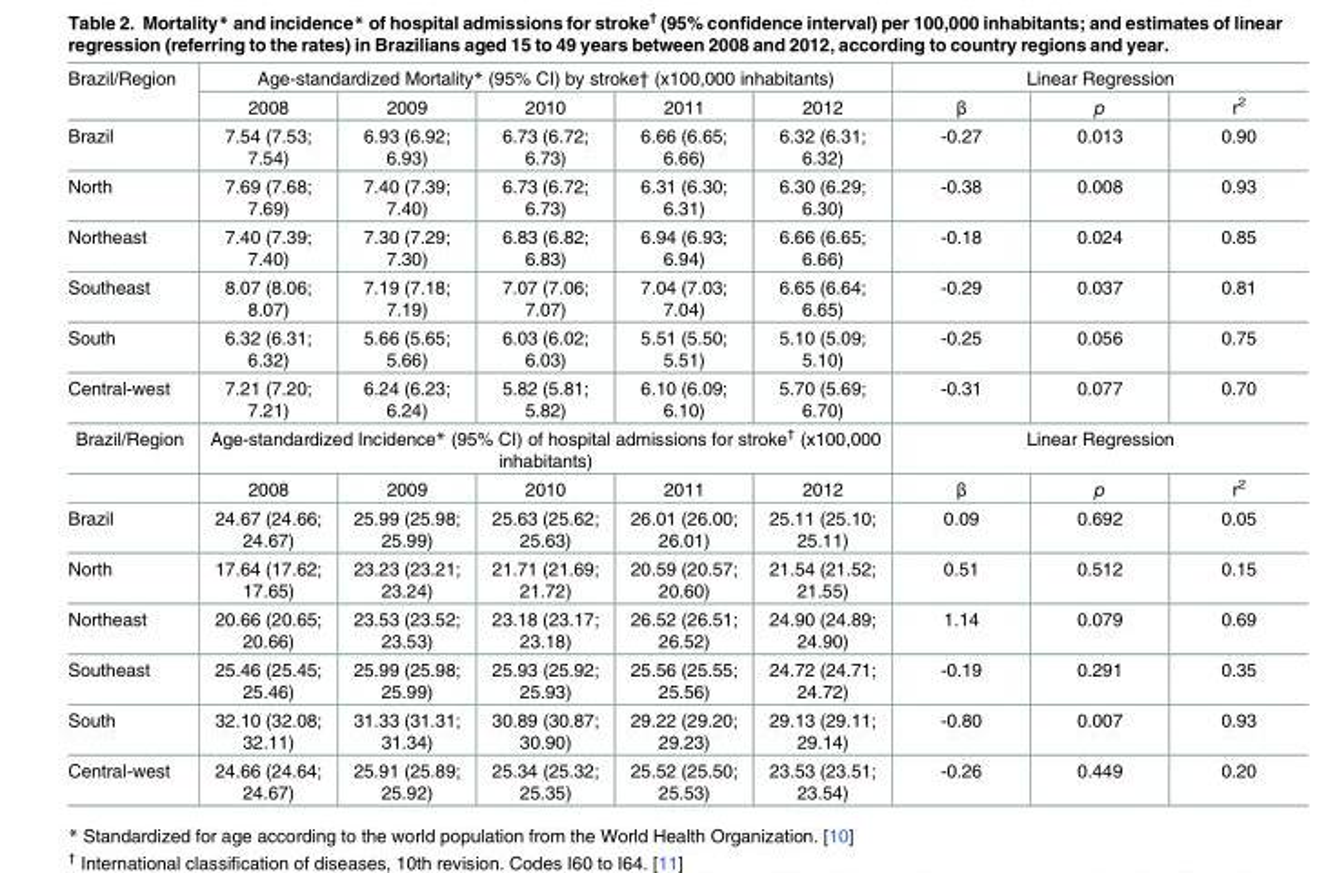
<table><tbody><tr><td rowspan="2">Brazil/Region</td><td colspan="5">Age-standardized Mortality* (95% CI) by stroke† (x100,000 inhabitants)</td><td colspan="3">Linear Regression</td></tr><tr><td>2008</td><td>2009</td><td>2010</td><td>2011</td><td>2012</td><td>β</td><td>p</td><td>r<sup>2</sup></td></tr><tr><td>Brazil</td><td>7.54 (7.53; 7.54)</td><td>6.93 (6.92; 6.93)</td><td>6.73 (6.72; 6.73)</td><td>6.66 (6.65; 6.66)</td><td>6.32 (6.31; 6.32)</td><td>-0.27</td><td>0.013</td><td>0.90</td></tr><tr><td>North</td><td>7.69 (7.68; 7.69)</td><td>7.40 (7.39; 7.40)</td><td>6.73 (6.72; 6.73)</td><td>6.31 (6.30; 6.31)</td><td>6.30 (6.29; 6.30)</td><td>-0.38</td><td>0.008</td><td>0.93</td></tr><tr><td>Northeast</td><td>7.40 (7.39; 7.40)</td><td>7.30 (7.29; 7.30)</td><td>6.83 (6.82; 6.83)</td><td>6.94 (6.93; 6.94)</td><td>6.66 (6.65; 6.66)</td><td>-0.18</td><td>0.024</td><td>0.85</td></tr><tr><td>Southeast</td><td>8.07 (8.06; 8.07)</td><td>7.19 (7.18; 7.19)</td><td>7.07 (7.06; 7.07)</td><td>7.04 (7.03; 7.04)</td><td>6.65 (6.64; 6.65)</td><td>-0.29</td><td>0.037</td><td>0.81</td></tr><tr><td>South</td><td>6.32 (6.31; 6.32)</td><td>5.66 (5.65; 5.66)</td><td>6.03 (6.02; 6.03)</td><td>5.51 (5.50; 5.51)</td><td>5.10 (5.09; 5.10)</td><td>-0.25</td><td>0.056</td><td>0.75</td></tr><tr><td>Central-west</td><td>7.21 (7.20; 7.21)</td><td>6.24 (6.23; 6.24)</td><td>5.82 (5.81; 5.82)</td><td>6.10 (6.09; 6.10)</td><td>5.70 (5.69; 6.70)</td><td>-0.31</td><td>0.077</td><td>0.70</td></tr><tr><td rowspan="2">Brazil/Region</td><td colspan="5">Age-standardized Incidence* (95% CI) of hospital admissions for stroke<sup>†</sup> (x100,000 inhabitants)</td><td colspan="3">Linear Regression</td></tr><tr><td>2008</td><td>2009</td><td>2010</td><td>2011</td><td>2012</td><td>β</td><td>p</td><td>r<sup>2</sup></td></tr><tr><td>Brazil</td><td>24.67 (24.66; 24.67)</td><td>25.99 (25.98; 25.99)</td><td>25.63 (25.62; 25.63)</td><td>26.01 (26.00; 26.01)</td><td>25.11 (25.10; 25.11)</td><td>0.09</td><td>0.692</td><td>0.05</td></tr><tr><td>North</td><td>17.64 (17.62; 17.65)</td><td>23.23 (23.21; 23.24)</td><td>21.71 (21.69; 21.72)</td><td>20.59 (20.57; 20.60)</td><td>21.54 (21.52; 21.55)</td><td>0.51</td><td>0.512</td><td>0.15</td></tr><tr><td>Northeast</td><td>20.66 (20.65; 20.66)</td><td>23.53 (23.52; 23.53)</td><td>23.18 (23.17; 23.18)</td><td>26.52 (26.51; 26.52)</td><td>24.90 (24.89; 24.90)</td><td>1.14</td><td>0.079</td><td>0.69</td></tr><tr><td>Southeast</td><td>25.46 (25.45; 25.46)</td><td>25.99 (25.98; 25.99)</td><td>25.93 (25.92; 25.93)</td><td>25.56 (25.55; 25.56)</td><td>24.72 (24.71; 24.72)</td><td>-0.19</td><td>0.291</td><td>0.35</td></tr><tr><td>South</td><td>32.10 (32.08; 32.11)</td><td>31.33 (31.31; 31.34)</td><td>30.89 (30.87; 30.90)</td><td>29.22 (29.20; 29.23)</td><td>29.13 (29.11; 29.14)</td><td>-0.80</td><td>0.007</td><td>0.93</td></tr><tr><td>Central-west</td><td>24.66 (24.64; 24.67)</td><td>25.91 (25.89; 25.92)</td><td>25.34 (25.32; 25.35)</td><td>25.52 (25.50; 25.53)</td><td>23.53 (23.51; 23.54)</td><td>-0.26</td><td>0.449</td><td>0.20</td></tr></tbody></table>